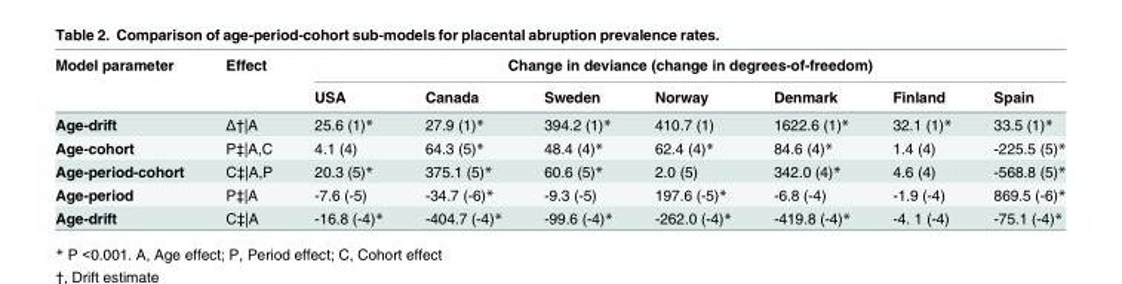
<table><thead><tr><td rowspan="2">Model parameter</td><td rowspan="2">Effect</td><td colspan="7">Change in deviance (change in degrees-of-freedom)</td></tr><tr><td>USA</td><td>Canada</td><td>Sweden</td><td>Norway</td><td>Denmark</td><td>Finland</td><td>Spain</td></tr></thead><tbody><tr><td>Age-drift</td><td>Δ†|A</td><td>25.6 (1)*</td><td>27.9 (1)*</td><td>394.2 (1)*</td><td>410.7 (1)</td><td>1622.6 (1)*</td><td>32.1 (1)*</td><td>33.5 (1)*</td></tr><tr><td>Age-cohort</td><td>P‡|A,C</td><td>4.1 (4)</td><td>64.3 (5)*</td><td>48.4 (4)*</td><td>62.4 (4)*</td><td>84.6 (4)*</td><td>1.4 (4)</td><td>-225.5 (5)*</td></tr><tr><td>Age-period-cohort</td><td>C‡|A,P</td><td>20.3 (5)*</td><td>375.1 (5)*</td><td>60.6 (5)*</td><td>2.0 (5)</td><td>342.0 (4)*</td><td>4.6 (4)</td><td>-568.8 (5)*</td></tr><tr><td>Age-period</td><td>P‡|A</td><td>-7.6 (-5)</td><td>-34.7 (-6)*</td><td>-9.3 (-5)</td><td>197.6 (-5)*</td><td>-6.8 (-4)</td><td>-1.9 (-4)</td><td>869.5 (-6)*</td></tr><tr><td>Age-drift</td><td>C‡|A</td><td>-16.8 (-4)*</td><td>-404.7 (-4)*</td><td>-99.6 (-4)*</td><td>-262.0 (-4)*</td><td>-419.8 (-4)*</td><td>-4. 1 (-4)</td><td>-75.1 (-4)*</td></tr></tbody></table>